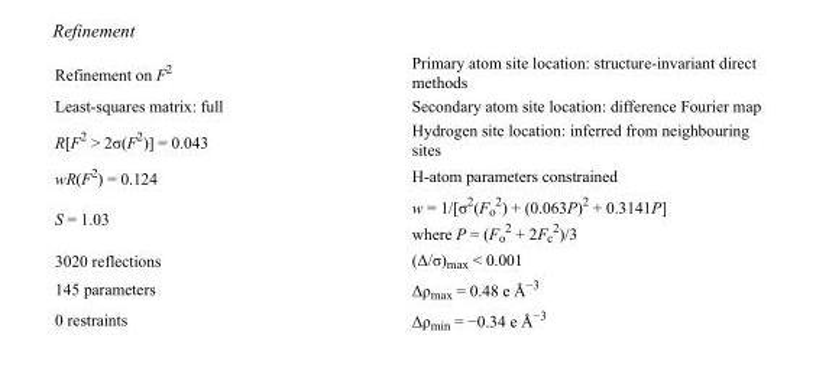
<table><tbody><tr><td>Refinement on F<sup>2</sup></td><td>Primary atom site location: structure-invariant direct methods</td></tr><tr><td>Least-squares matrix: full</td><td>Secondary atom site location: difference Fourier map</td></tr><tr><td>R[F<sup>2</sup> &gt; 2σ(F<sup>2</sup>)] = 0.043</td><td>Hydrogen site location: inferred from neighbouring sites</td></tr><tr><td>wR(F<sup>2</sup>) = 0.124</td><td>H-atom parameters constrained</td></tr><tr><td>S = 1.03</td><td>w = 1/[σ<sup>2</sup>(F<sub>o</sub> <sup>2</sup>) + (0.063P)<sup>2</sup> + 0.3141P] where P = (F<sub>o</sub> <sup>2</sup> + 2F<sub>c</sub> <sup>2</sup>)/3</td></tr><tr><td>3020 reflections</td><td>(Δ/σ)<sub>max</sub> &lt; 0.001</td></tr><tr><td>145 parameters</td><td>Δρ<sub>max</sub> = 0.48 e Å<sup>−3</sup></td></tr><tr><td>0 restraints</td><td>Δρ<sub>min</sub> = −0.34 e Å<sup>−3</sup></td></tr></tbody></table>